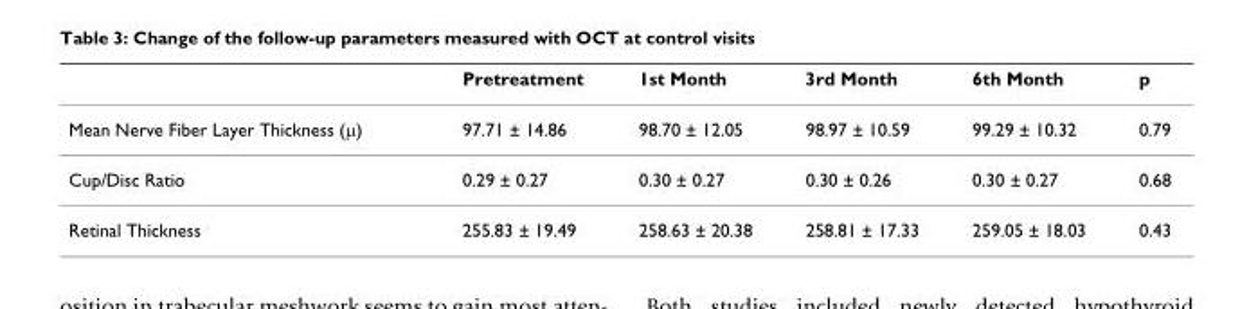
<table><thead><tr><td></td><td>Pretreatment</td><td>1st Month</td><td>3rd Month</td><td>6th Month</td><td>p</td></tr></thead><tbody><tr><td>Mean Nerve Fiber Layer Thickness (μ)</td><td>97.71 ± 14.86</td><td>98.70 ± 12.05</td><td>98.97 ± 10.59</td><td>99.29 ± 10.32</td><td>0.79</td></tr><tr><td>Cup/Disc Ratio</td><td>0.29 ± 0.27</td><td>0.30 ± 0.27</td><td>0.30 ± 0.26</td><td>0.30 ± 0.27</td><td>0.68</td></tr><tr><td>Retinal Thickness</td><td>255.83 ± 19.49</td><td>258.63 ± 20.38</td><td>258.81 ± 17.33</td><td>259.05 ± 18.03</td><td>0.43</td></tr></tbody></table>